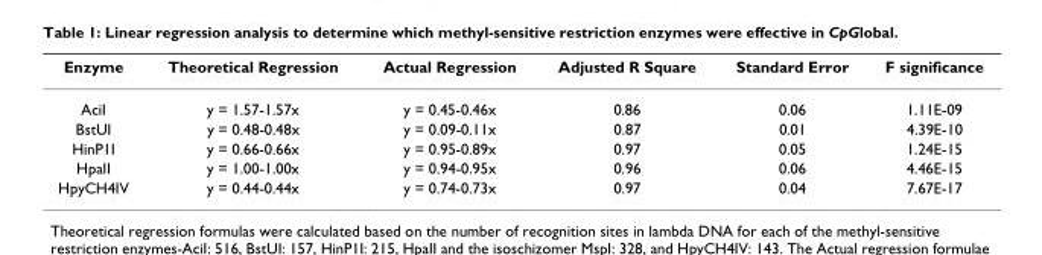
<table><thead><tr><td>Enzyme</td><td>Theoretical Regression</td><td>Actual Regression</td><td>Adjusted R Square</td><td>Standard Error</td><td>F significance</td></tr></thead><tbody><tr><td>AciI</td><td>y = 1.57-1.57x</td><td>y = 0.45-0.46x</td><td>0.86</td><td>0.06</td><td>1.11E-09</td></tr><tr><td>BstUI</td><td>y = 0.48-0.48x</td><td>y = 0.09-0.11x</td><td>0.87</td><td>0.01</td><td>4.39E-10</td></tr><tr><td>HinP1I</td><td>y = 0.66-0.66x</td><td>y = 0.95-0.89x</td><td>0.97</td><td>0.05</td><td>1.24E-15</td></tr><tr><td>HpaII</td><td>y = 1.00-1.00x</td><td>y = 0.94-0.95x</td><td>0.96</td><td>0.06</td><td>4.46E-15</td></tr><tr><td>HpyCH4IV</td><td>y = 0.44-0.44x</td><td>y = 0.74-0.73x</td><td>0.97</td><td>0.04</td><td>7.67E-17</td></tr></tbody></table>